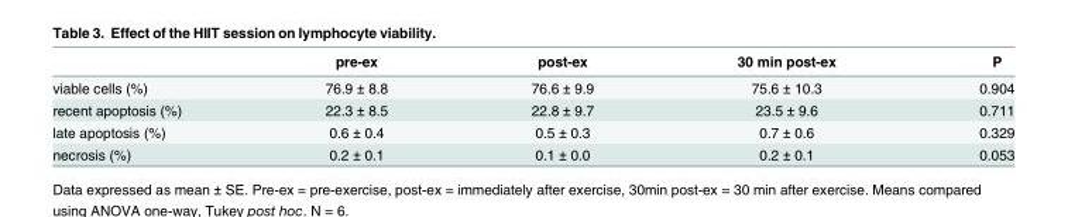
<table><thead><tr><td></td><td>pre-ex</td><td>post-ex</td><td>30 min post-ex</td><td>P</td></tr></thead><tbody><tr><td>viable cells (%)</td><td>76.9 ± 8.8</td><td>76.6 ± 9.9</td><td>75.6 ± 10.3</td><td>0.904</td></tr><tr><td>recent apoptosis (%)</td><td>22.3 ± 8.5</td><td>22.8 ± 9.7</td><td>23.5 ± 9.6</td><td>0.711</td></tr><tr><td>late apoptosis (%)</td><td>0.6 ± 0.4</td><td>0.5 ± 0.3</td><td>0.7 ± 0.6</td><td>0.329</td></tr><tr><td>necrosis (%)</td><td>0.2 ± 0.1</td><td>0.1 ± 0.0</td><td>0.2 ± 0.1</td><td>0.053</td></tr></tbody></table>